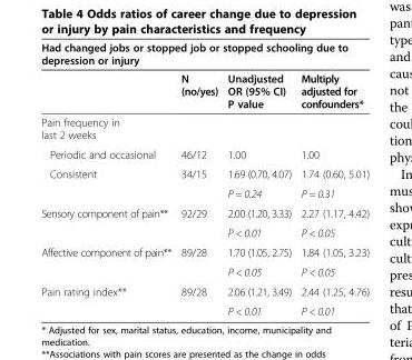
<table><thead><tr><td colspan="4">Had changed jobs or stopped job or stopped schooling due to depression or injury</td></tr><tr><td></td><td>N (no/yes)</td><td>Unadjusted OR (95% CI) P value</td><td>Multiply adjusted for confounders*</td></tr></thead><tbody><tr><td colspan="4">Pain frequency in last 2 weeks</td></tr><tr><td>Periodic and occasional</td><td>46/12</td><td>1.00</td><td>1.00</td></tr><tr><td rowspan="2">Consistent</td><td>34/15</td><td>1.69 (0.70, 4.07)</td><td>1.74 (0.60, 5.01)</td></tr><tr><td></td><td>P = 0.24</td><td>P = 0.31</td></tr><tr><td rowspan="2">Sensory component of pain**</td><td>92/29</td><td>2.00 (1.20, 3.33)</td><td>2.27 (1.17, 4.42)</td></tr><tr><td></td><td>P &lt; 0.01</td><td>P &lt; 0.05</td></tr><tr><td rowspan="2">Affective component of pain**</td><td>89/28</td><td>1.70 (1.05, 2.75)</td><td>1.84 (1.05, 3.23)</td></tr><tr><td></td><td>P &lt; 0.05</td><td>P &lt; 0.05</td></tr><tr><td rowspan="2">Pain rating index**</td><td>89/28</td><td>2.06 (1.21, 3.49)</td><td>2.44 (1.25, 4.76)</td></tr><tr><td></td><td>P &lt; 0.01</td><td>P &lt; 0.01</td></tr></tbody></table>